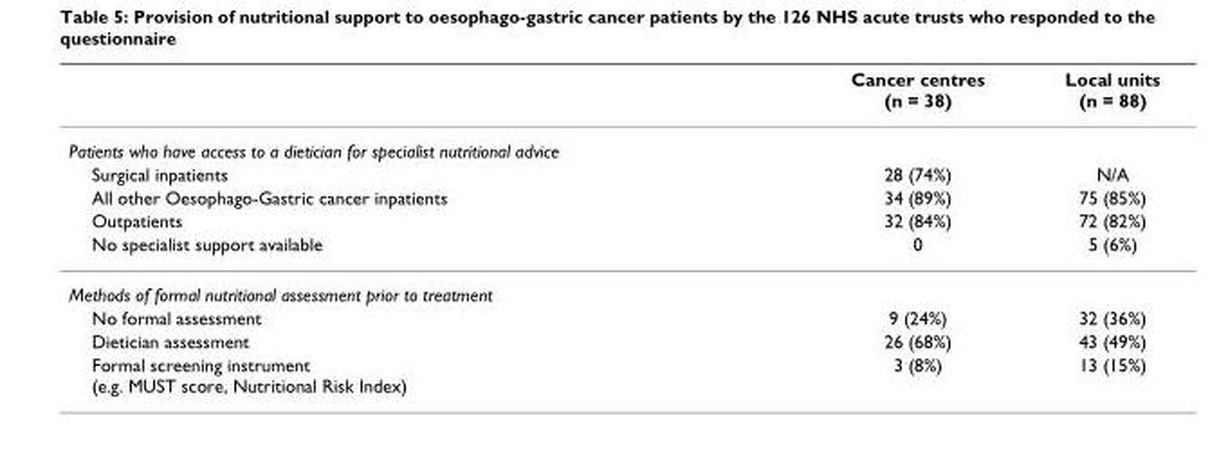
<table><thead><tr><td></td><td>Cancer centres (n = 38)</td><td>Local units (n = 88)</td></tr></thead><tbody><tr><td colspan="3">Patients who have access to a dietician for specialist nutritional advice</td></tr><tr><td>Surgical inpatients</td><td>28 (74%)</td><td>N/A</td></tr><tr><td>All other Oesophago-Gastric cancer inpatients</td><td>34 (89%)</td><td>75 (85%)</td></tr><tr><td>Outpatients</td><td>32 (84%)</td><td>72 (82%)</td></tr><tr><td>No specialist support available</td><td>0</td><td>5 (6%)</td></tr><tr><td colspan="3">Methods of formal nutritional assessment prior to treatment</td></tr><tr><td>No formal assessment</td><td>9 (24%)</td><td>32 (36%)</td></tr><tr><td>Dietician assessment</td><td>26 (68%)</td><td>43 (49%)</td></tr><tr><td>Formal screening instrument (e.g. MUST score, Nutritional Risk Index)</td><td>3 (8%)</td><td>13 (15%)</td></tr></tbody></table>